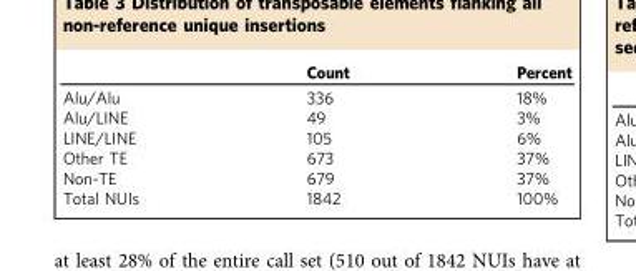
<table><thead><tr><td></td><td>Count</td><td>Percent</td></tr></thead><tbody><tr><td>Alu/Alu</td><td>336</td><td>18%</td></tr><tr><td>Alu/LINE</td><td>49</td><td>3%</td></tr><tr><td>LINE/LINE</td><td>105</td><td>6%</td></tr><tr><td>Other TE</td><td>673</td><td>37%</td></tr><tr><td>Non-TE</td><td>679</td><td>37%</td></tr><tr><td>Total NUIs</td><td>1842</td><td>100%</td></tr></tbody></table>